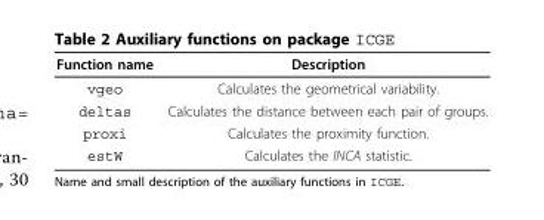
<table><thead><tr><td>Function name</td><td>Description</td></tr></thead><tbody><tr><td>vgeo</td><td>Calculates the geometrical variability.</td></tr><tr><td>deltas</td><td>Calculates the distance between each pair of groups.</td></tr><tr><td>proxi</td><td>Calculates the proximity function.</td></tr><tr><td>estW</td><td>Calculates the INCA statistic.</td></tr></tbody></table>